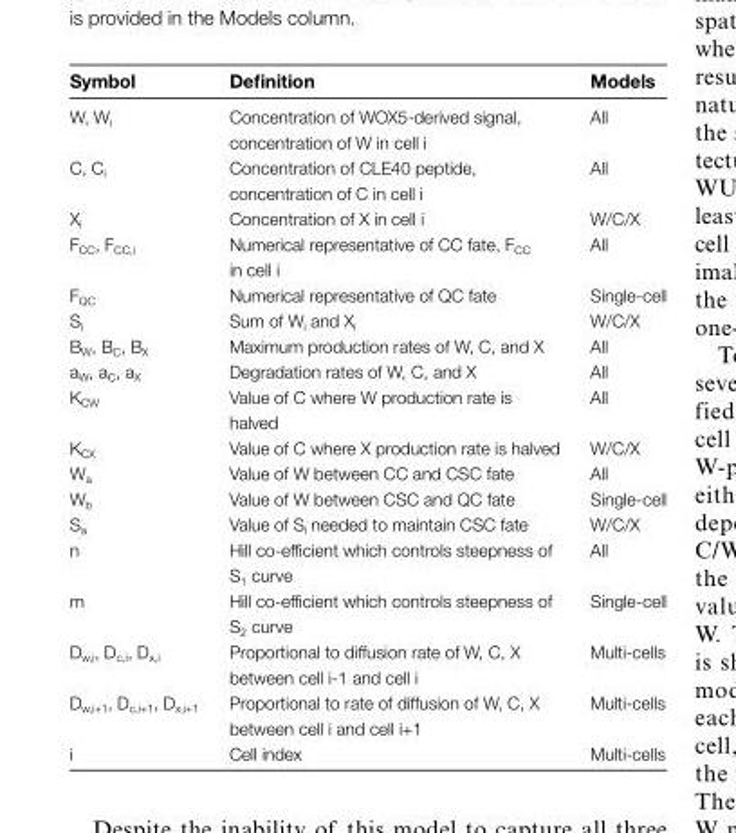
<table><thead><tr><td>Symbol</td><td>Definition</td><td>Models</td></tr></thead><tbody><tr><td>W, W<sub>i</sub></td><td>Concentration of WOX5-derived signal, concentration of W in cell i</td><td>All</td></tr><tr><td>C, C<sub>i</sub></td><td>Concentration of CLE40 peptide, concentration of C in cell i</td><td>All</td></tr><tr><td>X<sub>i</sub></td><td>Concentration of X in cell i</td><td>W/C/X</td></tr><tr><td>F<sub>CC</sub>, F<sub>CC,i</sub></td><td>Numerical representative of CC fate, F<sub>CC</sub> in cell i</td><td>All</td></tr><tr><td>F<sub>QC</sub></td><td>Numerical representative of QC fate</td><td>Single-cell</td></tr><tr><td>S<sub>i</sub></td><td>Sum of W<sub>i</sub> and X<sub>i</sub></td><td>W/C/X</td></tr><tr><td>B<sub>W</sub>, B<sub>C</sub>, B<sub>X</sub></td><td>Maximum production rates of W, C, and X</td><td>All</td></tr><tr><td>a<sub>W</sub>, a<sub>C</sub>, a<sub>X</sub></td><td>Degradation rates of W, C, and X</td><td>All</td></tr><tr><td>K<sub>CW</sub></td><td>Value of C where W production rate is halved</td><td>All</td></tr><tr><td>K<sub>CX</sub></td><td>Value of C where X production rate is halved</td><td>W/C/X</td></tr><tr><td>W<sub>a</sub></td><td>Value of W between CC and CSC fate</td><td>All</td></tr><tr><td>W<sub>b</sub></td><td>Value of W between CSC and QC fate</td><td>Single-cell</td></tr><tr><td>S<sub>a</sub></td><td>Value of S<sub>i</sub> needed to maintain CSC fate</td><td>W/C/X</td></tr><tr><td>n</td><td>Hill co-efficient which controls steepness of S<sub>1</sub> curve</td><td>All</td></tr><tr><td>m</td><td>Hill co-efficient which controls steepness of S<sub>2</sub> curve</td><td>Single-cell</td></tr><tr><td>D<sub>w,i</sub>, D<sub>c,i</sub>, D<sub>x,i</sub></td><td>Proportional to diffusion rate of W, C, X between cell i-1 and cell i</td><td>Multi-cells</td></tr><tr><td>D<sub>w,i+1</sub>, D<sub>c,i+1</sub>, D<sub>x,i+1</sub></td><td>Proportional to rate of diffusion of W, C, X between cell i and cell i+1</td><td>Multi-cells</td></tr><tr><td>i</td><td>Cell index</td><td>Multi-cells</td></tr></tbody></table>